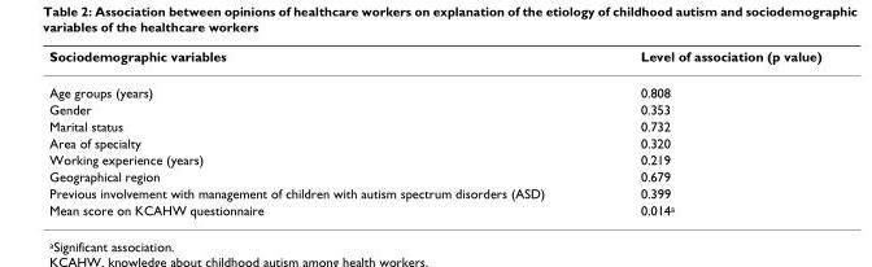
<table><thead><tr><td>Sociodemographic variables</td><td>Level of association (p value)</td></tr></thead><tbody><tr><td>Age groups (years)</td><td>0.808</td></tr><tr><td>Gender</td><td>0.353</td></tr><tr><td>Marital status</td><td>0.732</td></tr><tr><td>Area of specialty</td><td>0.320</td></tr><tr><td>Working experience (years)</td><td>0.219</td></tr><tr><td>Geographical region</td><td>0.679</td></tr><tr><td>Previous involvement with management of children with autism spectrum disorders (ASD)</td><td>0.399</td></tr><tr><td>Mean score on KCAHW questionnaire</td><td>0.014<sup>a</sup></td></tr></tbody></table>